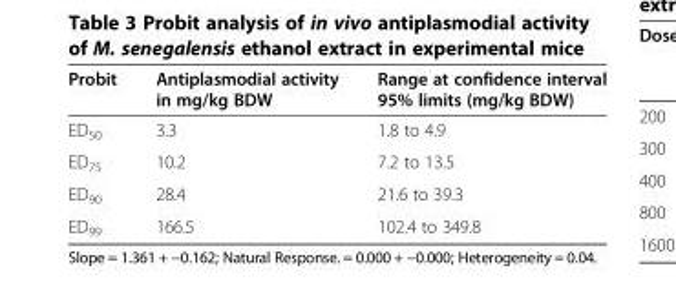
<table><thead><tr><td>Probit</td><td>Antiplasmodial activity in mg/kg BDW</td><td>Range at confidence interval 95% limits (mg/kg BDW)</td></tr></thead><tbody><tr><td>ED<sub>50</sub></td><td>3.3</td><td>1.8 to 4.9</td></tr><tr><td>ED<sub>75</sub></td><td>10.2</td><td>7.2 to 13.5</td></tr><tr><td>ED<sub>90</sub></td><td>28.4</td><td>21.6 to 39.3</td></tr><tr><td>ED<sub>99</sub></td><td>166.5</td><td>102.4 to 349.8</td></tr></tbody></table>